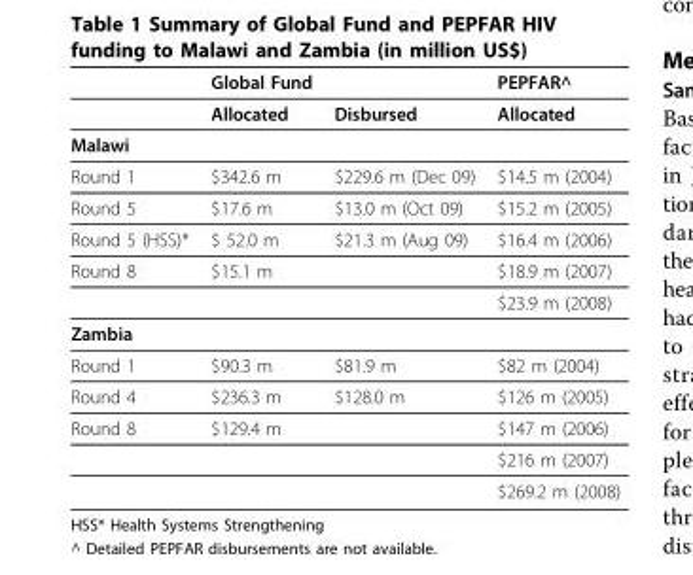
<table><thead><tr><td></td><td>Global Fund</td><td></td><td>PEPFAR^</td></tr></thead><tbody><tr><td></td><td>Allocated</td><td>Disbursed</td><td>Allocated</td></tr><tr><td colspan="4">Malawi</td></tr><tr><td>Round 1</td><td>$342.6 m</td><td>$229.6 m (Dec 09)</td><td>$14.5 m (2004)</td></tr><tr><td>Round 5</td><td>$17.6 m</td><td>$13.0 m (Oct 09)</td><td>$15.2 m (2005)</td></tr><tr><td>Round 5 (HSS)*</td><td>$ 52.0 m</td><td>$21.3 m (Aug 09)</td><td>$16.4 m (2006)</td></tr><tr><td rowspan="2">Round 8</td><td>$15.1 m</td><td></td><td>$18.9 m (2007)</td></tr><tr><td></td><td></td><td>$23.9 m (2008)</td></tr><tr><td colspan="4">Zambia</td></tr><tr><td>Round 1</td><td>$90.3 m</td><td>$81.9 m</td><td>$82 m (2004)</td></tr><tr><td>Round 4</td><td>$236.3 m</td><td>$128.0 m</td><td>$126 m (2005)</td></tr><tr><td rowspan="3">Round 8</td><td>$129.4 m</td><td></td><td>$147 m (2006)</td></tr><tr><td></td><td></td><td>$216 m (2007)</td></tr><tr><td></td><td></td><td>$269.2 m (2008)</td></tr></tbody></table>